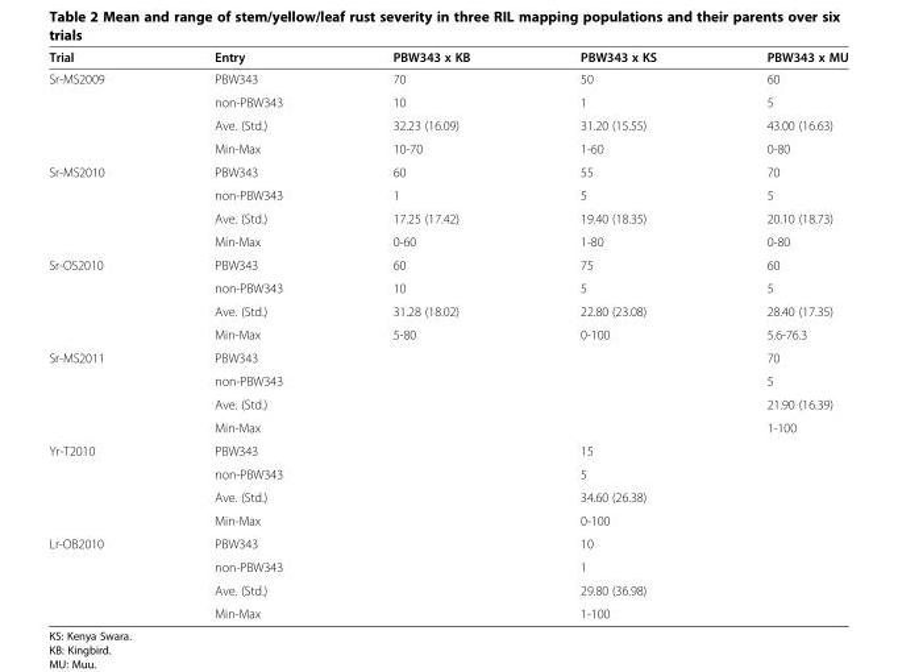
<table><thead><tr><td>Trial</td><td>Entry</td><td>PBW343 x KB</td><td>PBW343 x KS</td><td>PBW343 x MU</td></tr></thead><tbody><tr><td rowspan="4">Sr-MS2009</td><td>PBW343</td><td>70</td><td>50</td><td>60</td></tr><tr><td>non-PBW343</td><td>10</td><td>1</td><td>5</td></tr><tr><td>Ave. (Std.)</td><td>32.23 (16.09)</td><td>31.20 (15.55)</td><td>43.00 (16.63)</td></tr><tr><td>Min-Max</td><td>10-70</td><td>1-60</td><td>0-80</td></tr><tr><td rowspan="4">Sr-MS2010</td><td>PBW343</td><td>60</td><td>55</td><td>70</td></tr><tr><td>non-PBW343</td><td>1</td><td>5</td><td>5</td></tr><tr><td>Ave. (Std.)</td><td>17.25 (17.42)</td><td>19.40 (18.35)</td><td>20.10 (18.73)</td></tr><tr><td>Min-Max</td><td>0-60</td><td>1-80</td><td>0-80</td></tr><tr><td rowspan="4">Sr-OS2010</td><td>PBW343</td><td>60</td><td>75</td><td>60</td></tr><tr><td>non-PBW343</td><td>10</td><td>5</td><td>5</td></tr><tr><td>Ave. (Std.)</td><td>31.28 (18.02)</td><td>22.80 (23.08)</td><td>28.40 (17.35)</td></tr><tr><td>Min-Max</td><td>5-80</td><td>0-100</td><td>5.6-76.3</td></tr><tr><td rowspan="4">Sr-MS2011</td><td>PBW343</td><td></td><td></td><td>70</td></tr><tr><td>non-PBW343</td><td></td><td></td><td>5</td></tr><tr><td>Ave. (Std.)</td><td></td><td></td><td>21.90 (16.39)</td></tr><tr><td>Min-Max</td><td></td><td></td><td>1-100</td></tr><tr><td rowspan="4">Yr-T2010</td><td>PBW343</td><td></td><td>15</td><td></td></tr><tr><td>non-PBW343</td><td></td><td>5</td><td></td></tr><tr><td>Ave. (Std.)</td><td></td><td>34.60 (26.38)</td><td></td></tr><tr><td>Min-Max</td><td></td><td>0-100</td><td></td></tr><tr><td rowspan="4">Lr-OB2010</td><td>PBW343</td><td></td><td>10</td><td></td></tr><tr><td>non-PBW343</td><td></td><td>1</td><td></td></tr><tr><td>Ave. (Std.)</td><td></td><td>29.80 (36.98)</td><td></td></tr><tr><td>Min-Max</td><td></td><td>1-100</td><td></td></tr></tbody></table>